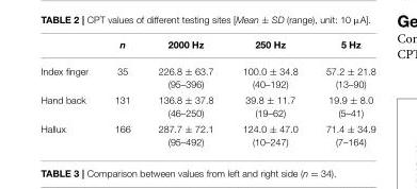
<table><thead><tr><td></td><td>n</td><td>2000 Hz</td><td>250 Hz</td><td>5 Hz</td></tr></thead><tbody><tr><td>Index finger</td><td>35</td><td>226.8 ± 63.7 (95–396)</td><td>100.0 ± 34.8 (40–192)</td><td>57.2 ± 21.8 (13–90)</td></tr><tr><td>Hand back</td><td>131</td><td>136.8 ± 37.8 (46–250)</td><td>39.8 ± 11.7 (19–62)</td><td>19.9 ± 8.0 (5–41)</td></tr><tr><td>Hallux</td><td>166</td><td>287.7 ± 72.1 (95–492)</td><td>124.0 ± 47.0 (10–247)</td><td>71.4 ± 34.9 (7–164)</td></tr></tbody></table>